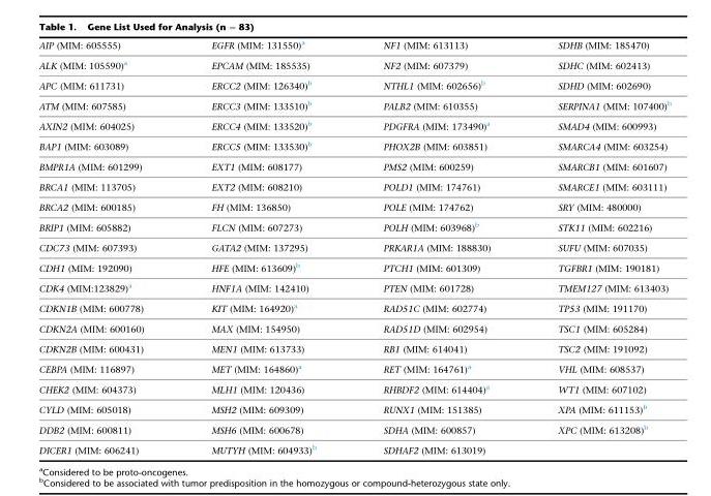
<table><tbody><tr><td>AIP (MIM: 605555)</td><td>EGFR (MIM: 131550)<sup>a</sup></td><td>NF1 (MIM: 613113)</td><td>SDHB (MIM: 185470)</td></tr><tr><td>ALK (MIM: 105590)<sup>a</sup></td><td>EPCAM (MIM: 185535)</td><td>NF2 (MIM: 607379)</td><td>SDHC (MIM: 602413)</td></tr><tr><td>APC (MIM: 611731)</td><td>ERCC2 (MIM: 126340)<sup>b</sup></td><td>NTHL1 (MIM: 602656)<sup>b</sup></td><td>SDHD (MIM: 602690)</td></tr><tr><td>ATM (MIM: 607585)</td><td>ERCC3 (MIM: 133510)<sup>b</sup></td><td>PALB2 (MIM: 610355)</td><td>SERPINA1 (MIM: 107400)<sup>b</sup></td></tr><tr><td>AXIN2 (MIM: 604025)</td><td>ERCC4 (MIM: 133520)<sup>b</sup></td><td>PDGFRA (MIM: 173490)<sup>a</sup></td><td>SMAD4 (MIM: 600993)</td></tr><tr><td>BAP1 (MIM: 603089)</td><td>ERCC5 (MIM: 133530)<sup>b</sup></td><td>PHOX2B (MIM: 603851)</td><td>SMARCA4 (MIM: 603254)</td></tr><tr><td>BMPR1A (MIM: 601299)</td><td>EXT1 (MIM: 608177)</td><td>PMS2 (MIM: 600259)</td><td>SMARCB1 (MIM: 601607)</td></tr><tr><td>BRCA1 (MIM: 113705)</td><td>EXT2 (MIM: 608210)</td><td>POLD1 (MIM: 174761)</td><td>SMARCE1 (MIM: 603111)</td></tr><tr><td>BRCA2 (MIM: 600185)</td><td>FH (MIM: 136850)</td><td>POLE (MIM: 174762)</td><td>SRY (MIM: 480000)</td></tr><tr><td>BRIP1 (MIM: 605882)</td><td>FLCN (MIM: 607273)</td><td>POLH (MIM: 603968)<sup>b</sup></td><td>STK11 (MIM: 602216)</td></tr><tr><td>CDC73 (MIM: 607393)</td><td>GATA2 (MIM: 137295)</td><td>PRKAR1A (MIM: 188830)</td><td>SUFU (MIM: 607035)</td></tr><tr><td>CDH1 (MIM: 192090)</td><td>HFE (MIM: 613609)<sup>b</sup></td><td>PTCH1 (MIM: 601309)</td><td>TGFBR1 (MIM: 190181)</td></tr><tr><td>CDK4 (MIM:123829)<sup>a</sup></td><td>HNF1A (MIM: 142410)</td><td>PTEN (MIM: 601728)</td><td>TMEM127 (MIM: 613403)</td></tr><tr><td>CDKN1B (MIM: 600778)</td><td>KIT (MIM: 164920)<sup>a</sup></td><td>RAD51C (MIM: 602774)</td><td>TP53 (MIM: 191170)</td></tr><tr><td>CDKN2A (MIM: 600160)</td><td>MAX (MIM: 154950)</td><td>RAD51D (MIM: 602954)</td><td>TSC1 (MIM: 605284)</td></tr><tr><td>CDKN2B (MIM: 600431)</td><td>MEN1 (MIM: 613733)</td><td>RB1 (MIM: 614041)</td><td>TSC2 (MIM: 191092)</td></tr><tr><td>CEBPA (MIM: 116897)</td><td>MET (MIM: 164860)<sup>a</sup></td><td>RET (MIM: 164761)<sup>a</sup></td><td>VHL (MIM: 608537)</td></tr><tr><td>CHEK2 (MIM: 604373)</td><td>MLH1 (MIM: 120436)</td><td>RHBDF2 (MIM: 614404)<sup>a</sup></td><td>WT1 (MIM: 607102)</td></tr><tr><td>CYLD (MIM: 605018)</td><td>MSH2 (MIM: 609309)</td><td>RUNX1 (MIM: 151385)</td><td>XPA (MIM: 611153)<sup>b</sup></td></tr><tr><td>DDB2 (MIM: 600811)</td><td>MSH6 (MIM: 600678)</td><td>SDHA (MIM: 600857)</td><td>XPC (MIM: 613208)<sup>b</sup></td></tr><tr><td>DICER1 (MIM: 606241)</td><td>MUTYH (MIM: 604933)<sup>b</sup></td><td>SDHAF2 (MIM: 613019)</td><td></td></tr></tbody></table>